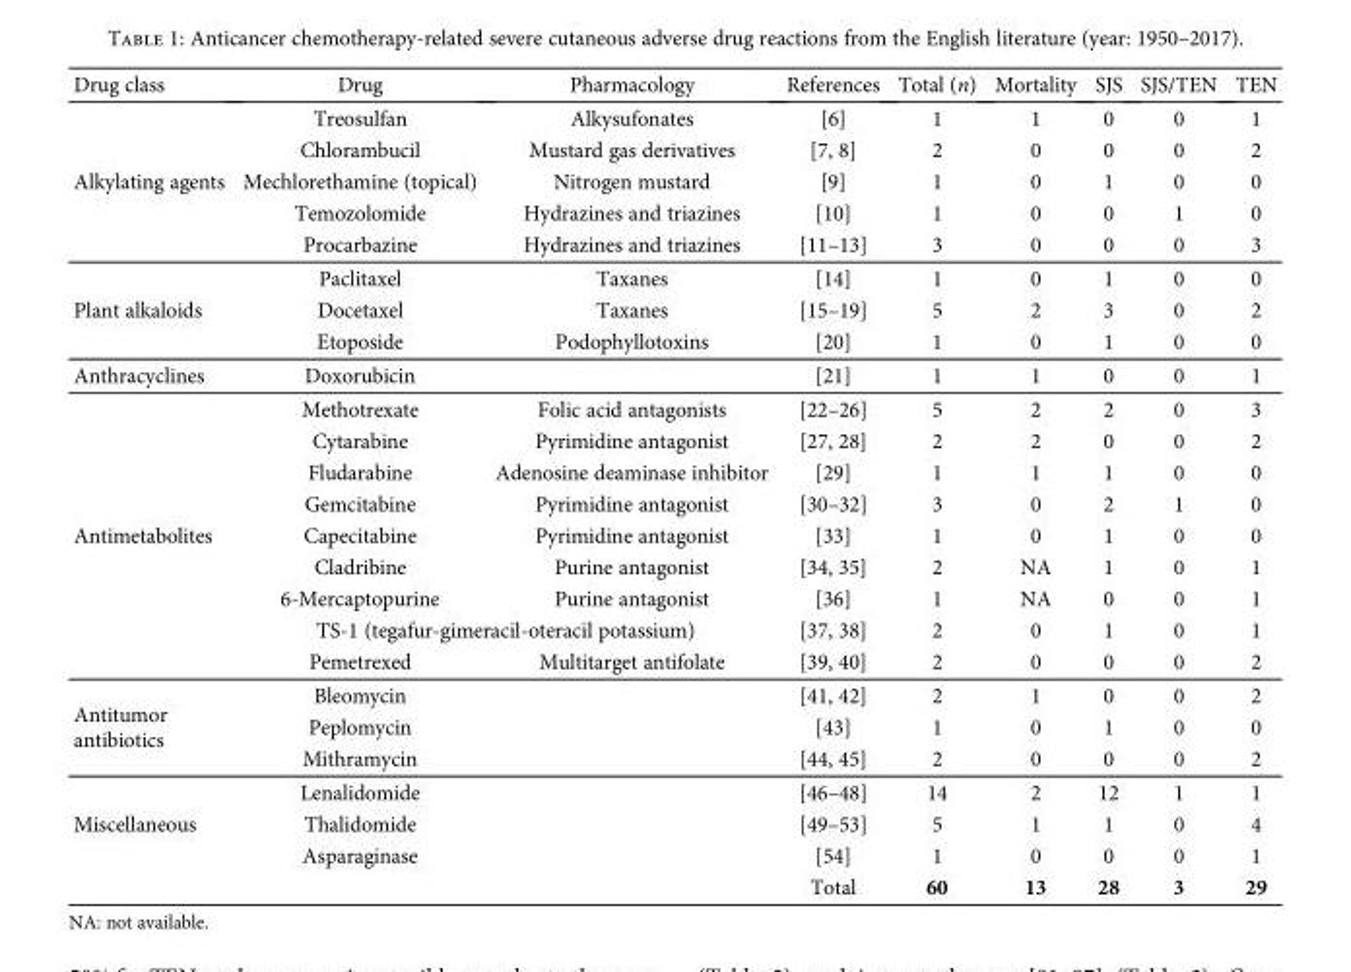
<table><thead><tr><td>Drug class</td><td>Drug</td><td>Pharmacology</td><td>References</td><td>Total (n)</td><td>Mortality</td><td>SJS</td><td>SJS/TEN</td><td>TEN</td></tr></thead><tbody><tr><td rowspan="5">Alkylating agents</td><td>Treosulfan</td><td>Alkysufonates</td><td>[6]</td><td>1</td><td>1</td><td>0</td><td>0</td><td>1</td></tr><tr><td>Chlorambucil</td><td>Mustard gas derivatives</td><td>[7, 8]</td><td>2</td><td>0</td><td>0</td><td>0</td><td>2</td></tr><tr><td>Mechlorethamine (topical)</td><td>Nitrogen mustard</td><td>[9]</td><td>1</td><td>0</td><td>1</td><td>0</td><td>0</td></tr><tr><td>Temozolomide</td><td>Hydrazines and triazines</td><td>[10]</td><td>1</td><td>0</td><td>0</td><td>1</td><td>0</td></tr><tr><td>Procarbazine</td><td>Hydrazines and triazines</td><td>[11–13]</td><td>3</td><td>0</td><td>0</td><td>0</td><td>3</td></tr><tr><td rowspan="3">Plant alkaloids</td><td>Paclitaxel</td><td>Taxanes</td><td>[14]</td><td>1</td><td>0</td><td>1</td><td>0</td><td>0</td></tr><tr><td>Docetaxel</td><td>Taxanes</td><td>[15–19]</td><td>5</td><td>2</td><td>3</td><td>0</td><td>2</td></tr><tr><td>Etoposide</td><td>Podophyllotoxins</td><td>[20]</td><td>1</td><td>0</td><td>1</td><td>0</td><td>0</td></tr><tr><td>Anthracyclines</td><td>Doxorubicin</td><td></td><td>[21]</td><td>1</td><td>1</td><td>0</td><td>0</td><td>1</td></tr><tr><td rowspan="9">Antimetabolites</td><td>Methotrexate</td><td>Folic acid antagonists</td><td>[22–26]</td><td>5</td><td>2</td><td>2</td><td>0</td><td>3</td></tr><tr><td>Cytarabine</td><td>Pyrimidine antagonist</td><td>[27, 28]</td><td>2</td><td>2</td><td>0</td><td>0</td><td>2</td></tr><tr><td>Fludarabine</td><td>Adenosine deaminase inhibitor</td><td>[29]</td><td>1</td><td>1</td><td>1</td><td>0</td><td>0</td></tr><tr><td>Gemcitabine</td><td>Pyrimidine antagonist</td><td>[30–32]</td><td>3</td><td>0</td><td>2</td><td>1</td><td>0</td></tr><tr><td>Capecitabine</td><td>Pyrimidine antagonist</td><td>[33]</td><td>1</td><td>0</td><td>1</td><td>0</td><td>0</td></tr><tr><td>Cladribine</td><td>Purine antagonist</td><td>[34, 35]</td><td>2</td><td>NA</td><td>1</td><td>0</td><td>1</td></tr><tr><td>6-Mercaptopurine</td><td>Purine antagonist</td><td>[36]</td><td>1</td><td>NA</td><td>0</td><td>0</td><td>1</td></tr><tr><td colspan="2">TS-1 (tegafur-gimeracil-oteracil potassium)</td><td>[37, 38]</td><td>2</td><td>0</td><td>1</td><td>0</td><td>1</td></tr><tr><td>Pemetrexed</td><td>Multitarget antifolate</td><td>[39, 40]</td><td>2</td><td>0</td><td>0</td><td>0</td><td>2</td></tr><tr><td rowspan="3">Antitumor antibiotics</td><td>Bleomycin</td><td></td><td>[41, 42]</td><td>2</td><td>1</td><td>0</td><td>0</td><td>2</td></tr><tr><td>Peplomycin</td><td></td><td>[43]</td><td>1</td><td>0</td><td>1</td><td>0</td><td>0</td></tr><tr><td>Mithramycin</td><td></td><td>[44, 45]</td><td>2</td><td>0</td><td>0</td><td>0</td><td>2</td></tr><tr><td rowspan="4">Miscellaneous</td><td>Lenalidomide</td><td></td><td>[46–48]</td><td>14</td><td>2</td><td>12</td><td>1</td><td>1</td></tr><tr><td>Thalidomide</td><td></td><td>[49–53]</td><td>5</td><td>1</td><td>1</td><td>0</td><td>4</td></tr><tr><td>Asparaginase</td><td></td><td>[54]</td><td>1</td><td>0</td><td>0</td><td>0</td><td>1</td></tr><tr><td></td><td></td><td>Total</td><td>60</td><td>13</td><td>28</td><td>3</td><td>29</td></tr></tbody></table>